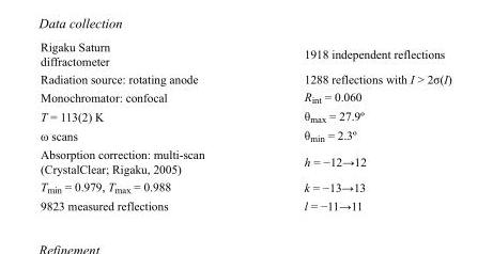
<table><tbody><tr><td>Rigaku Saturn diffractometer</td><td>1918 independent reflections</td></tr><tr><td>Radiation source: rotating anode</td><td>1288 reflections with I &gt; 2σ(I)</td></tr><tr><td>Monochromator: confocal</td><td>R<sub>int</sub> = 0.060</td></tr><tr><td>T = 113(2) K</td><td>θ<sub>max</sub> = 27.9º</td></tr><tr><td>ω scans</td><td>θ<sub>min</sub> = 2.3º</td></tr><tr><td>Absorption correction: multi-scan (CrystalClear; Rigaku, 2005)</td><td>h = −12→12</td></tr><tr><td>T<sub>min</sub> = 0.979, T<sub>max</sub> = 0.988</td><td>k = −13→13</td></tr><tr><td>9823 measured reflections</td><td>l = −11→11</td></tr></tbody></table>